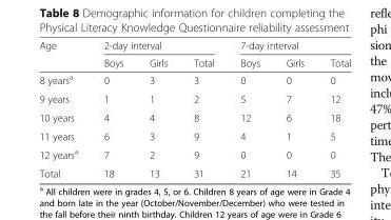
<table><thead><tr><td rowspan="2">Age</td><td colspan="3">2-day interval</td><td colspan="3">7-day interval</td></tr><tr><td>Boys</td><td>Girls</td><td>Total</td><td>Boys</td><td>Girls</td><td>Total</td></tr></thead><tbody><tr><td>8 years<sup>a</sup></td><td>0</td><td>3</td><td>3</td><td>0</td><td>0</td><td>0</td></tr><tr><td>9 years</td><td>1</td><td>1</td><td>2</td><td>5</td><td>7</td><td>12</td></tr><tr><td>10 years</td><td>4</td><td>4</td><td>8</td><td>12</td><td>6</td><td>18</td></tr><tr><td>11 years</td><td>6</td><td>3</td><td>9</td><td>4</td><td>1</td><td>5</td></tr><tr><td>12 years<sup>a</sup></td><td>7</td><td>2</td><td>9</td><td>0</td><td>0</td><td>0</td></tr><tr><td>Total</td><td>18</td><td>13</td><td>31</td><td>21</td><td>14</td><td>35</td></tr></tbody></table>